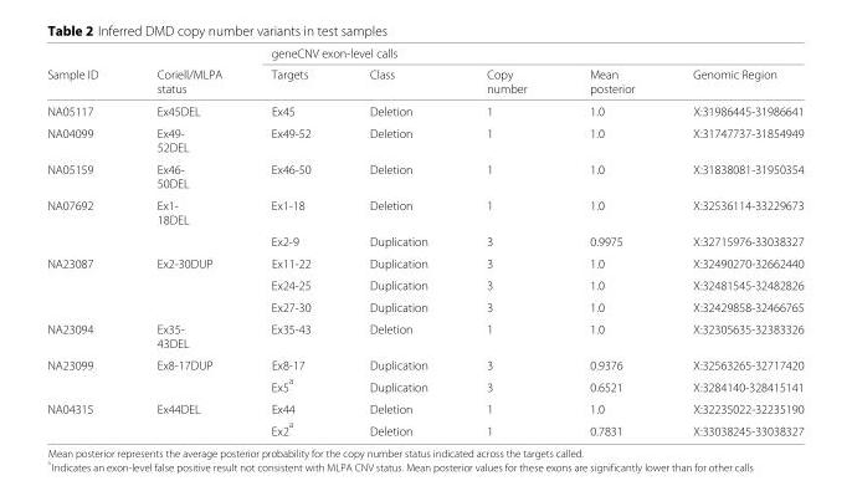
<table><thead><tr><td rowspan="2">Sample ID</td><td rowspan="2">Coriell/MLPA status</td><td colspan="5">geneCNV exon-level calls</td></tr><tr><td>Targets</td><td>Class</td><td>Copy number</td><td>Mean posterior</td><td>Genomic Region</td></tr></thead><tbody><tr><td>NA05117</td><td>Ex45DEL</td><td>Ex45</td><td>Deletion</td><td>1</td><td>1.0</td><td>X:31986445-31986641</td></tr><tr><td>NA04099</td><td>Ex49- 52DEL</td><td>Ex49-52</td><td>Deletion</td><td>1</td><td>1.0</td><td>X:31747737-31854949</td></tr><tr><td>NA05159</td><td>Ex46- 50DEL</td><td>Ex46-50</td><td>Deletion</td><td>1</td><td>1.0</td><td>X:31838081-31950354</td></tr><tr><td rowspan="2">NA07692</td><td>Ex1- 18DEL</td><td>Ex1-18</td><td>Deletion</td><td>1</td><td>1.0</td><td>X:32536114-33229673</td></tr><tr><td></td><td>Ex2-9</td><td>Duplication</td><td>3</td><td>0.9975</td><td>X:32715976-33038327</td></tr><tr><td rowspan="3">NA23087</td><td>Ex2-30DUP</td><td>Ex11-22</td><td>Duplication</td><td>3</td><td>1.0</td><td>X:32490270-32662440</td></tr><tr><td></td><td>Ex24-25</td><td>Duplication</td><td>3</td><td>1.0</td><td>X:32481545-32482826</td></tr><tr><td></td><td>Ex27-30</td><td>Duplication</td><td>3</td><td>1.0</td><td>X:32429858-32466765</td></tr><tr><td>NA23094</td><td>Ex35- 43DEL</td><td>Ex35-43</td><td>Deletion</td><td>1</td><td>1.0</td><td>X:32305635-32383326</td></tr><tr><td rowspan="2">NA23099</td><td>Ex8-17DUP</td><td>Ex8-17</td><td>Duplication</td><td>3</td><td>0.9376</td><td>X:32563265-32717420</td></tr><tr><td></td><td>Ex5 <sup>a</sup></td><td>Duplication</td><td>3</td><td>0.6521</td><td>X:3284140-328415141</td></tr><tr><td rowspan="2">NA04315</td><td>Ex44DEL</td><td>Ex44</td><td>Deletion</td><td>1</td><td>1.0</td><td>X:32235022-32235190</td></tr><tr><td></td><td>Ex2 <sup>a</sup></td><td>Deletion</td><td>1</td><td>0.7831</td><td>X:33038245-33038327</td></tr></tbody></table>